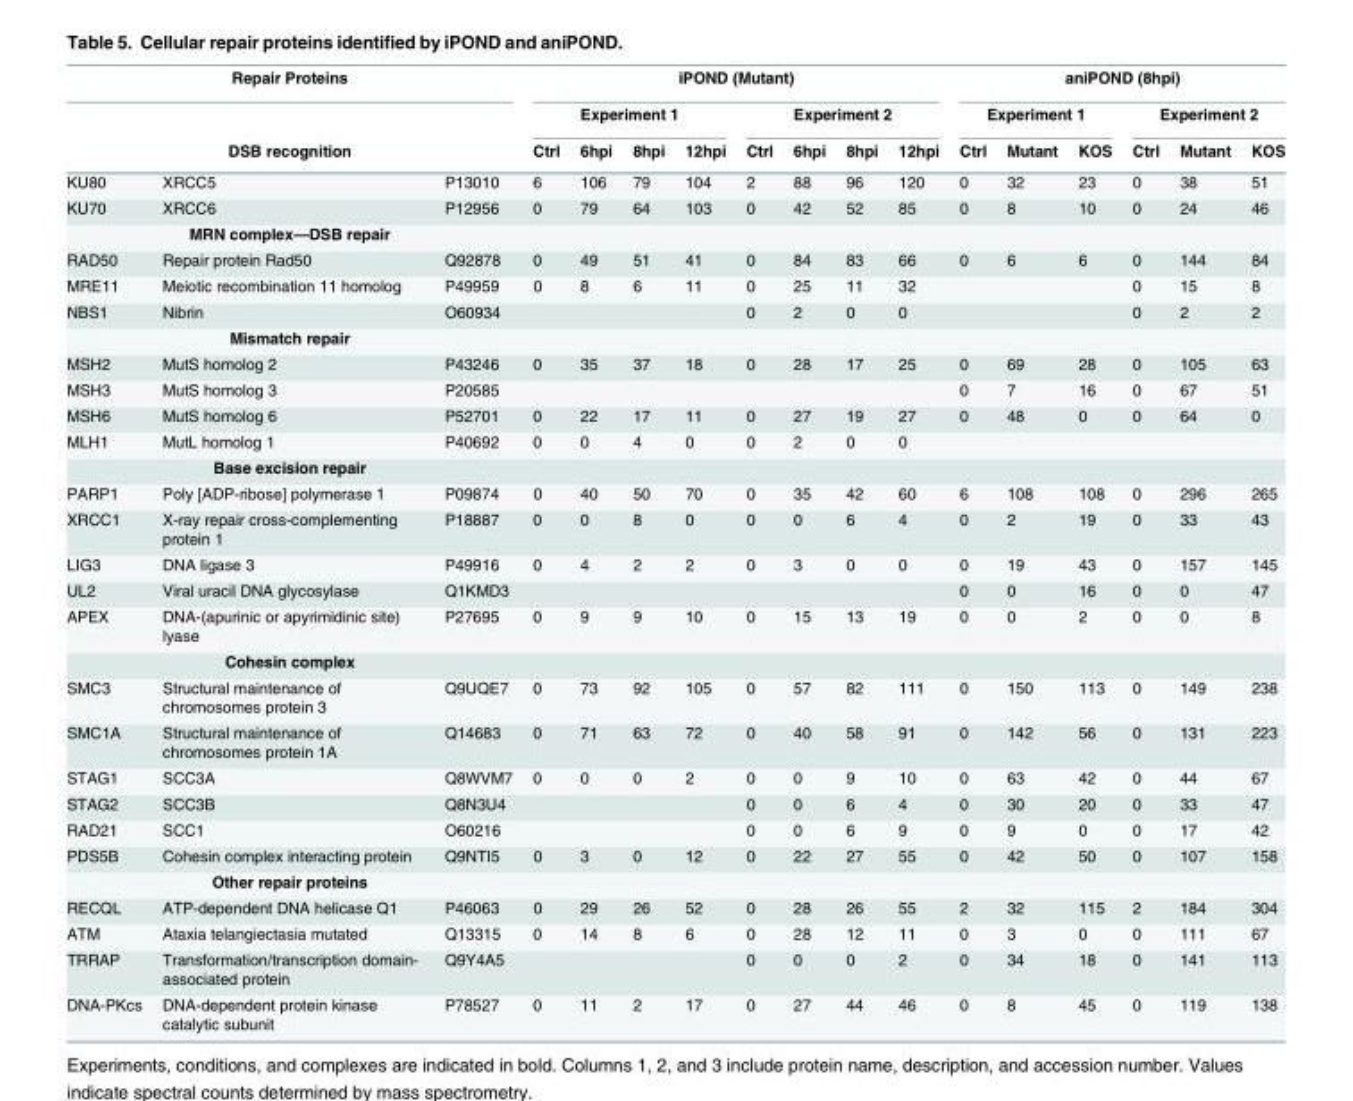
<table><thead><tr><td colspan="3">Repair Proteins</td><td colspan="8">iPOND (Mutant)</td><td colspan="6">aniPOND (8hpi)</td></tr><tr><td></td><td></td><td></td><td colspan="4">Experiment 1</td><td colspan="4">Experiment 2</td><td colspan="3">Experiment 1</td><td colspan="3">Experiment 2</td></tr><tr><td colspan="3">DSB recognition</td><td>Ctrl</td><td>6hpi</td><td>8hpi</td><td>12hpi</td><td>Ctrl</td><td>6hpi</td><td>8hpi</td><td>12hpi</td><td>Ctrl</td><td>Mutant</td><td>KOS</td><td>Ctrl</td><td>Mutant</td><td>KOS</td></tr></thead><tbody><tr><td>KU80</td><td>XRCC5</td><td>P13010</td><td>6</td><td>106</td><td>79</td><td>104</td><td>2</td><td>88</td><td>96</td><td>120</td><td>0</td><td>32</td><td>23</td><td>0</td><td>38</td><td>51</td></tr><tr><td>KU70</td><td>XRCC6</td><td>P12956</td><td>0</td><td>79</td><td>64</td><td>103</td><td>0</td><td>42</td><td>52</td><td>85</td><td>0</td><td>8</td><td>10</td><td>0</td><td>24</td><td>46</td></tr><tr><td colspan="17">MRN complex—DSB repair</td></tr><tr><td>RAD50</td><td>Repair protein Rad50</td><td>Q92878</td><td>0</td><td>49</td><td>51</td><td>41</td><td>0</td><td>84</td><td>83</td><td>66</td><td>0</td><td>6</td><td>6</td><td>0</td><td>144</td><td>84</td></tr><tr><td>MRE11</td><td>Meiotic recombination 11 homolog</td><td>P49959</td><td>0</td><td>8</td><td>6</td><td>11</td><td>0</td><td>25</td><td>11</td><td>32</td><td></td><td></td><td></td><td>0</td><td>15</td><td>8</td></tr><tr><td>NBS1</td><td>Nibrin</td><td>O60934</td><td></td><td></td><td></td><td></td><td>0</td><td>2</td><td>0</td><td>0</td><td></td><td></td><td></td><td>0</td><td>2</td><td>2</td></tr><tr><td colspan="17">Mismatch repair</td></tr><tr><td>MSH2</td><td>MutS homolog 2</td><td>P43246</td><td>0</td><td>35</td><td>37</td><td>18</td><td>0</td><td>28</td><td>17</td><td>25</td><td>0</td><td>69</td><td>28</td><td>0</td><td>105</td><td>63</td></tr><tr><td>MSH3</td><td>MutS homolog 3</td><td>P20585</td><td></td><td></td><td></td><td></td><td></td><td></td><td></td><td></td><td>0</td><td>7</td><td>16</td><td>0</td><td>67</td><td>51</td></tr><tr><td>MSH6</td><td>MutS homolog 6</td><td>P52701</td><td>0</td><td>22</td><td>17</td><td>11</td><td>0</td><td>27</td><td>19</td><td>27</td><td>0</td><td>48</td><td>0</td><td>0</td><td>64</td><td>0</td></tr><tr><td>MLH1</td><td>MutL homolog 1</td><td>P40692</td><td>0</td><td>0</td><td>4</td><td>0</td><td>0</td><td>2</td><td>0</td><td>0</td><td></td><td></td><td></td><td></td><td></td><td></td></tr><tr><td colspan="17">Base excision repair</td></tr><tr><td>PARP1</td><td>Poly [ADP-ribose] polymerase 1</td><td>P09874</td><td>0</td><td>40</td><td>50</td><td>70</td><td>0</td><td>35</td><td>42</td><td>60</td><td>6</td><td>108</td><td>108</td><td>0</td><td>296</td><td>265</td></tr><tr><td>XRCC1</td><td>X-ray repair cross-complementing protein 1</td><td>P18887</td><td>0</td><td>0</td><td>8</td><td>0</td><td>0</td><td>0</td><td>6</td><td>4</td><td>0</td><td>2</td><td>19</td><td>0</td><td>33</td><td>43</td></tr><tr><td>LIG3</td><td>DNA ligase 3</td><td>P49916</td><td>0</td><td>4</td><td>2</td><td>2</td><td>0</td><td>3</td><td>0</td><td>0</td><td>0</td><td>19</td><td>43</td><td>0</td><td>157</td><td>145</td></tr><tr><td>UL2</td><td>Viral uracil DNA glycosylase</td><td>Q1KMD3</td><td></td><td></td><td></td><td></td><td></td><td></td><td></td><td></td><td>0</td><td>0</td><td>16</td><td>0</td><td>0</td><td>47</td></tr><tr><td>APEX</td><td>DNA-(apurinic or apyrimidinic site) lyase</td><td>P27695</td><td>0</td><td>9</td><td>9</td><td>10</td><td>0</td><td>15</td><td>13</td><td>19</td><td>0</td><td>0</td><td>2</td><td>0</td><td>0</td><td>8</td></tr><tr><td colspan="17">Cohesin complex</td></tr><tr><td>SMC3</td><td>Structural maintenance of chromosomes protein 3</td><td>Q9UQE7</td><td>0</td><td>73</td><td>92</td><td>105</td><td>0</td><td>57</td><td>82</td><td>111</td><td>0</td><td>150</td><td>113</td><td>0</td><td>149</td><td>238</td></tr><tr><td>SMC1A</td><td>Structural maintenance of chromosomes protein 1A</td><td>Q14683</td><td>0</td><td>71</td><td>63</td><td>72</td><td>0</td><td>40</td><td>58</td><td>91</td><td>0</td><td>142</td><td>56</td><td>0</td><td>131</td><td>223</td></tr><tr><td>STAG1</td><td>SCC3A</td><td>Q8WVM7</td><td>0</td><td>0</td><td>0</td><td>2</td><td>0</td><td>0</td><td>9</td><td>10</td><td>0</td><td>63</td><td>42</td><td>0</td><td>44</td><td>67</td></tr><tr><td>STAG2</td><td>SCC3B</td><td>Q8N3U4</td><td></td><td></td><td></td><td></td><td>0</td><td>0</td><td>6</td><td>4</td><td>0</td><td>30</td><td>20</td><td>0</td><td>33</td><td>47</td></tr><tr><td>RAD21</td><td>SCC1</td><td>O60216</td><td></td><td></td><td></td><td></td><td>0</td><td>0</td><td>6</td><td>9</td><td>0</td><td>9</td><td>0</td><td>0</td><td>17</td><td>42</td></tr><tr><td>PDS5B</td><td>Cohesin complex interacting protein</td><td>Q9NTI5</td><td>0</td><td>3</td><td>0</td><td>12</td><td>0</td><td>22</td><td>27</td><td>55</td><td>0</td><td>42</td><td>50</td><td>0</td><td>107</td><td>158</td></tr><tr><td colspan="17">Other repair proteins</td></tr><tr><td>RECQL</td><td>ATP-dependent DNA helicase Q1</td><td>P46063</td><td>0</td><td>29</td><td>26</td><td>52</td><td>0</td><td>28</td><td>26</td><td>55</td><td>2</td><td>32</td><td>115</td><td>2</td><td>184</td><td>304</td></tr><tr><td>ATM</td><td>Ataxia telangiectasia mutated</td><td>Q13315</td><td>0</td><td>14</td><td>8</td><td>6</td><td>0</td><td>28</td><td>12</td><td>11</td><td>0</td><td>3</td><td>0</td><td>0</td><td>111</td><td>67</td></tr><tr><td>TRRAP</td><td>Transformation/transcription domain- associated protein</td><td>Q9Y4A5</td><td></td><td></td><td></td><td></td><td>0</td><td>0</td><td>0</td><td>2</td><td>0</td><td>34</td><td>18</td><td>0</td><td>141</td><td>113</td></tr><tr><td>DNA-PKcs</td><td>DNA-dependent protein kinase catalytic subunit</td><td>P78527</td><td>0</td><td>11</td><td>2</td><td>17</td><td>0</td><td>27</td><td>44</td><td>46</td><td>0</td><td>8</td><td>45</td><td>0</td><td>119</td><td>138</td></tr></tbody></table>